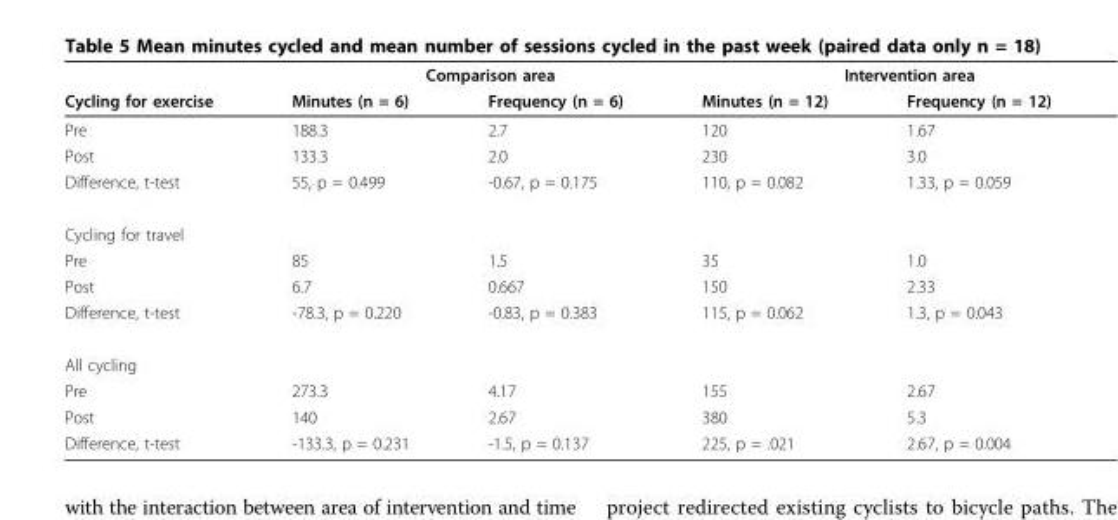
<table><thead><tr><td rowspan="2">Cycling for exercise</td><td colspan="2">Comparison area</td><td colspan="2">Intervention area</td></tr><tr><td>Minutes (n = 6)</td><td>Frequency (n = 6)</td><td>Minutes (n = 12)</td><td>Frequency (n = 12)</td></tr></thead><tbody><tr><td>Pre</td><td>188.3</td><td>2.7</td><td>120</td><td>1.67</td></tr><tr><td>Post</td><td>133.3</td><td>2.0</td><td>230</td><td>3.0</td></tr><tr><td>Difference, t-test</td><td>55, p = 0.499</td><td>-0.67, p = 0.175</td><td>110, p = 0.082</td><td>1.33, p = 0.059</td></tr><tr><td colspan="5">Cycling for travel</td></tr><tr><td>Pre</td><td>85</td><td>1.5</td><td>35</td><td>1.0</td></tr><tr><td>Post</td><td>6.7</td><td>0.667</td><td>150</td><td>2.33</td></tr><tr><td>Difference, t-test</td><td>-78.3, p = 0.220</td><td>-0.83, p = 0.383</td><td>115, p = 0.062</td><td>1.3, p = 0.043</td></tr><tr><td colspan="5">All cycling</td></tr><tr><td>Pre</td><td>273.3</td><td>4.17</td><td>155</td><td>2.67</td></tr><tr><td>Post</td><td>140</td><td>2.67</td><td>380</td><td>5.3</td></tr><tr><td>Difference, t-test</td><td>-133.3, p = 0.231</td><td>-1.5, p = 0.137</td><td>225, p = .021</td><td>2.67, p = 0.004</td></tr></tbody></table>